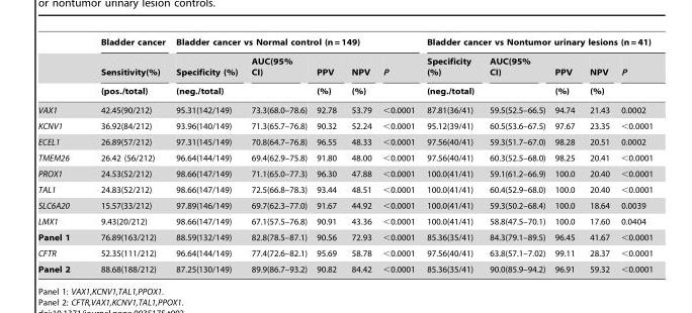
<table><thead><tr><td rowspan="3"></td><td rowspan="3">Bladder cancer Sensitivity(%) (pos./total)</td><td colspan="5">Bladder cancer vs Normal control (n = 149)</td><td colspan="5">Bladder cancer vs Nontumor urinary lesions (n = 41)</td></tr><tr><td rowspan="2">Specificity (%) (neg./total)</td><td rowspan="2">AUC(95% CI)</td><td rowspan="2">PPV (%)</td><td rowspan="2">NPV (%)</td><td rowspan="2">P</td><td rowspan="2">Specificity (%) (neg./total)</td><td rowspan="2">AUC(95% CI)</td><td rowspan="2">PPV (%)</td><td rowspan="2">NPV (%)</td><td rowspan="2">P</td></tr><tr></tr></thead><tbody><tr><td>VAX1</td><td>42.45(90/212)</td><td>95.31(142/149)</td><td>73.3(68.0–78.6)</td><td>92.78</td><td>53.79</td><td>&lt;0.0001</td><td>87.81(36/41)</td><td>59.5(52.5–66.5)</td><td>94.74</td><td>21.43</td><td>0.0002</td></tr><tr><td>KCNV1</td><td>36.92(84/212)</td><td>93.96(140/149)</td><td>71.3(65.7–76.8)</td><td>90.32</td><td>52.24</td><td>&lt;0.0001</td><td>95.12(39/41)</td><td>60.5(53.6–67.5)</td><td>97.67</td><td>23.35</td><td>&lt;0.0001</td></tr><tr><td>ECEL1</td><td>26.89(57/212)</td><td>97.31(145/149)</td><td>70.8(64.7–76.8)</td><td>96.55</td><td>48.33</td><td>&lt;0.0001</td><td>97.56(40/41)</td><td>59.3(51.7–67.0)</td><td>98.28</td><td>20.51</td><td>0.0002</td></tr><tr><td>TMEM26</td><td>26.42 (56/212)</td><td>96.64(144/149)</td><td>69.4(62.9–75.8)</td><td>91.80</td><td>48.00</td><td>&lt;0.0001</td><td>97.56(40/41)</td><td>60.3(52.5–68.0)</td><td>98.25</td><td>20.41</td><td>&lt;0.0001</td></tr><tr><td>PROX1</td><td>24.53(52/212)</td><td>98.66(147/149)</td><td>71.1(65.0–77.3)</td><td>96.30</td><td>47.88</td><td>&lt;0.0001</td><td>100.0(41/41)</td><td>59.1(61.2–66.9)</td><td>100.0</td><td>20.40</td><td>&lt;0.0001</td></tr><tr><td>TAL1</td><td>24.83(52/212)</td><td>98.66(147/149)</td><td>72.5(66.8–78.3)</td><td>93.44</td><td>48.51</td><td>&lt;0.0001</td><td>100.0(41/41)</td><td>60.4(52.9–68.0)</td><td>100.0</td><td>20.40</td><td>&lt;0.0001</td></tr><tr><td>SLC6A20</td><td>15.57(33/212)</td><td>97.89(146/149)</td><td>69.7(62.3–77.0)</td><td>91.67</td><td>44.92</td><td>&lt;0.0001</td><td>100.0(41/41)</td><td>59.3(50.2–68.4)</td><td>100.0</td><td>18.64</td><td>0.0039</td></tr><tr><td>LMX1</td><td>9.43(20/212)</td><td>98.66(147/149)</td><td>67.1(57.5–76.8)</td><td>90.91</td><td>43.36</td><td>&lt;0.0001</td><td>100.0(41/41)</td><td>58.8(47.5–70.1)</td><td>100.0</td><td>17.60</td><td>0.0404</td></tr><tr><td>Panel 1</td><td>76.89(163/212)</td><td>88.59(132/149)</td><td>82.8(78.5–87.1)</td><td>90.56</td><td>72.93</td><td>&lt;0.0001</td><td>85.36(35/41)</td><td>84.3(79.1–89.5)</td><td>96.45</td><td>41.67</td><td>&lt;0.0001</td></tr><tr><td>CFTR</td><td>52.35(111/212)</td><td>96.64(144/149)</td><td>77.4(72.6–82.1)</td><td>95.69</td><td>58.78</td><td>&lt;0.0001</td><td>97.56(40/41)</td><td>63.8(57.1–7.02)</td><td>99.11</td><td>28.37</td><td>&lt;0.0001</td></tr><tr><td>Panel 2</td><td>88.68(188/212)</td><td>87.25(130/149)</td><td>89.9(86.7–93.2)</td><td>90.82</td><td>84.42</td><td>&lt;0.0001</td><td>85.36(35/41)</td><td>90.0(85.9–94.2)</td><td>96.91</td><td>59.32</td><td>&lt;0.0001</td></tr></tbody></table>